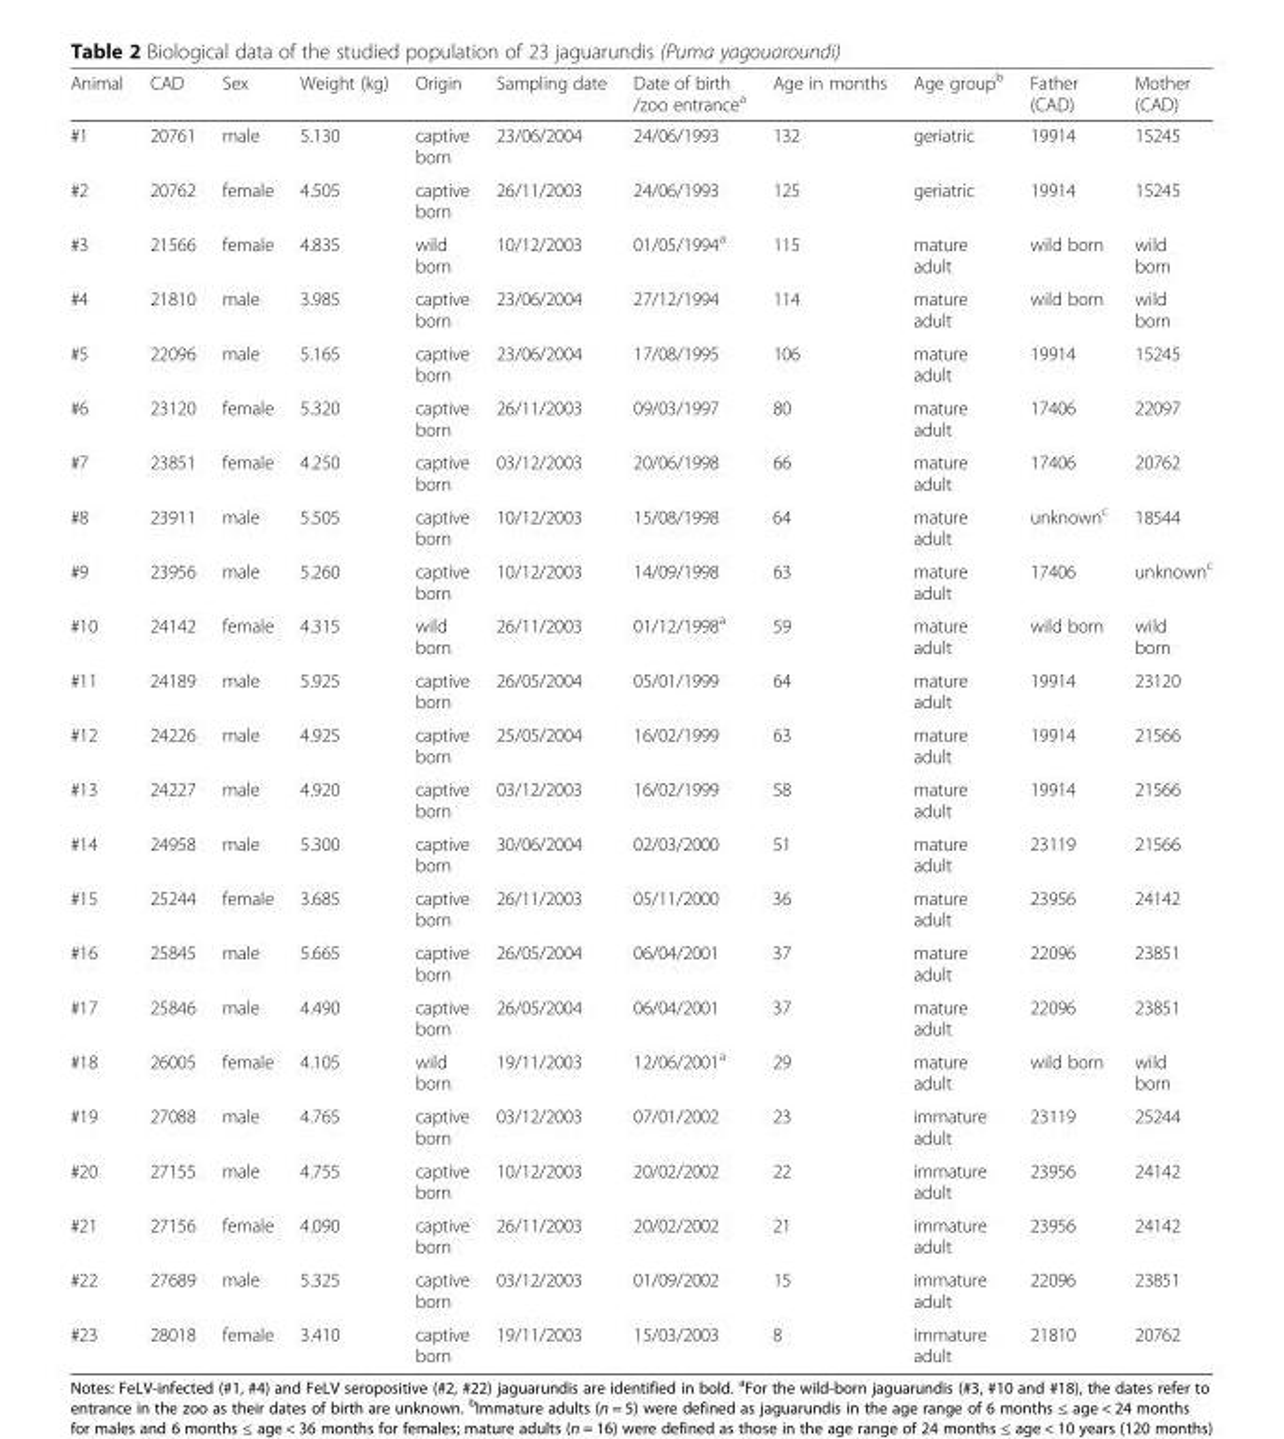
<table><thead><tr><td>Animal</td><td>CAD</td><td>Sex</td><td>Weight (kg)</td><td>Origin</td><td>Sampling date</td><td>Date of birth /zoo entrance<sup>a</sup></td><td>Age in months</td><td>Age group<sup>b</sup></td><td>Father (CAD)</td><td>Mother (CAD)</td></tr></thead><tbody><tr><td>#1</td><td>20761</td><td>male</td><td>5.130</td><td>captive born</td><td>23/06/2004</td><td>24/06/1993</td><td>132</td><td>geriatric</td><td>19914</td><td>15245</td></tr><tr><td>#2</td><td>20762</td><td>female</td><td>4.505</td><td>captive born</td><td>26/11/2003</td><td>24/06/1993</td><td>125</td><td>geriatric</td><td>19914</td><td>15245</td></tr><tr><td>#3</td><td>21566</td><td>female</td><td>4.835</td><td>wild born</td><td>10/12/2003</td><td>01/05/1994<sup>a</sup></td><td>115</td><td>mature adult</td><td>wild born</td><td>wild born</td></tr><tr><td>#4</td><td>21810</td><td>male</td><td>3.985</td><td>captive born</td><td>23/06/2004</td><td>27/12/1994</td><td>114</td><td>mature adult</td><td>wild born</td><td>wild born</td></tr><tr><td>#5</td><td>22096</td><td>male</td><td>5.165</td><td>captive born</td><td>23/06/2004</td><td>17/08/1995</td><td>106</td><td>mature adult</td><td>19914</td><td>15245</td></tr><tr><td>#6</td><td>23120</td><td>female</td><td>5.320</td><td>captive born</td><td>26/11/2003</td><td>09/03/1997</td><td>80</td><td>mature adult</td><td>17406</td><td>22097</td></tr><tr><td>#7</td><td>23851</td><td>female</td><td>4.250</td><td>captive born</td><td>03/12/2003</td><td>20/06/1998</td><td>66</td><td>mature adult</td><td>17406</td><td>20762</td></tr><tr><td>#8</td><td>23911</td><td>male</td><td>5.505</td><td>captive born</td><td>10/12/2003</td><td>15/08/1998</td><td>64</td><td>mature adult</td><td>unknown<sup>c</sup></td><td>18544</td></tr><tr><td>#9</td><td>23956</td><td>male</td><td>5.260</td><td>captive born</td><td>10/12/2003</td><td>14/09/1998</td><td>63</td><td>mature adult</td><td>17406</td><td>unknown<sup>c</sup></td></tr><tr><td>#10</td><td>24142</td><td>female</td><td>4.315</td><td>wild born</td><td>26/11/2003</td><td>01/12/1998<sup>a</sup></td><td>59</td><td>mature adult</td><td>wild born</td><td>wild born</td></tr><tr><td>#11</td><td>24189</td><td>male</td><td>5.925</td><td>captive born</td><td>26/05/2004</td><td>05/01/1999</td><td>64</td><td>mature adult</td><td>19914</td><td>23120</td></tr><tr><td>#12</td><td>24226</td><td>male</td><td>4.925</td><td>captive born</td><td>25/05/2004</td><td>16/02/1999</td><td>63</td><td>mature adult</td><td>19914</td><td>21566</td></tr><tr><td>#13</td><td>24227</td><td>male</td><td>4.920</td><td>captive born</td><td>03/12/2003</td><td>16/02/1999</td><td>58</td><td>mature adult</td><td>19914</td><td>21566</td></tr><tr><td>#14</td><td>24958</td><td>male</td><td>5.300</td><td>captive born</td><td>30/06/2004</td><td>02/03/2000</td><td>51</td><td>mature adult</td><td>23119</td><td>21566</td></tr><tr><td>#15</td><td>25244</td><td>female</td><td>3.685</td><td>captive born</td><td>26/11/2003</td><td>05/11/2000</td><td>36</td><td>mature adult</td><td>23956</td><td>24142</td></tr><tr><td>#16</td><td>25845</td><td>male</td><td>5.665</td><td>captive born</td><td>26/05/2004</td><td>06/04/2001</td><td>37</td><td>mature adult</td><td>22096</td><td>23851</td></tr><tr><td>#17</td><td>25846</td><td>male</td><td>4.490</td><td>captive born</td><td>26/05/2004</td><td>06/04/2001</td><td>37</td><td>mature adult</td><td>22096</td><td>23851</td></tr><tr><td>#18</td><td>26005</td><td>female</td><td>4.105</td><td>wild born</td><td>19/11/2003</td><td>12/06/2001<sup>a</sup></td><td>29</td><td>mature adult</td><td>wild born</td><td>wild born</td></tr><tr><td>#19</td><td>27088</td><td>male</td><td>4.765</td><td>captive born</td><td>03/12/2003</td><td>07/01/2002</td><td>23</td><td>immature adult</td><td>23119</td><td>25244</td></tr><tr><td>#20</td><td>27155</td><td>male</td><td>4.755</td><td>captive born</td><td>10/12/2003</td><td>20/02/2002</td><td>22</td><td>immature adult</td><td>23956</td><td>24142</td></tr><tr><td>#21</td><td>27156</td><td>female</td><td>4.090</td><td>captive born</td><td>26/11/2003</td><td>20/02/2002</td><td>21</td><td>immature adult</td><td>23956</td><td>24142</td></tr><tr><td>#22</td><td>27689</td><td>male</td><td>5.325</td><td>captive born</td><td>03/12/2003</td><td>01/09/2002</td><td>15</td><td>immature adult</td><td>22096</td><td>23851</td></tr><tr><td>#23</td><td>28018</td><td>female</td><td>3.410</td><td>captive born</td><td>19/11/2003</td><td>15/03/2003</td><td>8</td><td>immature adult</td><td>21810</td><td>20762</td></tr></tbody></table>